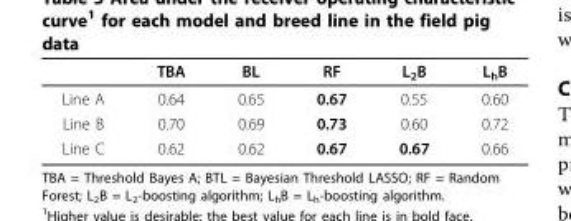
<table><thead><tr><td></td><td>TBA</td><td>BL</td><td>RF</td><td>L<sub>2</sub>B</td><td>L<sub>h</sub>B</td></tr></thead><tbody><tr><td>Line A</td><td>0.64</td><td>0.65</td><td>0.67</td><td>0.55</td><td>0.60</td></tr><tr><td>Line B</td><td>0.70</td><td>0.69</td><td>0.73</td><td>0.60</td><td>0.72</td></tr><tr><td>Line C</td><td>0.62</td><td>0.62</td><td>0.67</td><td>0.67</td><td>0.66</td></tr></tbody></table>